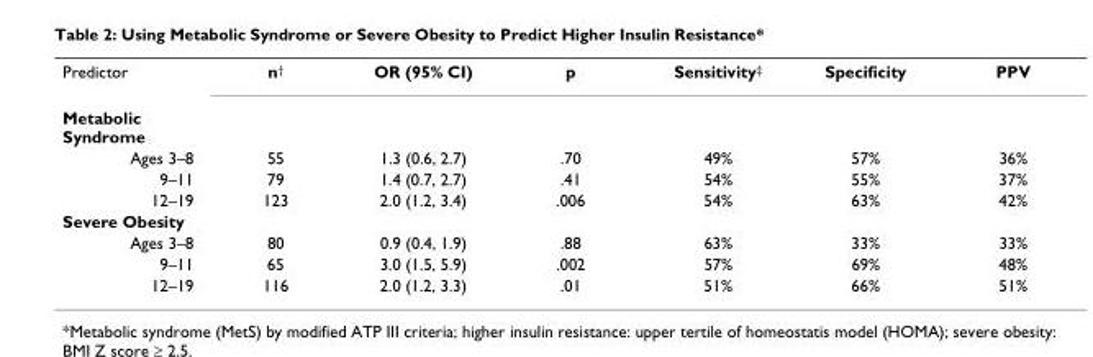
<table><tbody><tr><td>Predictor</td><td>n<sup>†</sup></td><td>OR (95% CI)</td><td>p</td><td>Sensitivity<sup>‡</sup></td><td>Specificity</td><td>PPV</td></tr><tr><td colspan="7">Metabolic Syndrome</td></tr><tr><td>Ages 3–8</td><td>55</td><td>1.3 (0.6, 2.7)</td><td>.70</td><td>49%</td><td>57%</td><td>36%</td></tr><tr><td>9–11</td><td>79</td><td>1.4 (0.7, 2.7)</td><td>.41</td><td>54%</td><td>55%</td><td>37%</td></tr><tr><td>12–19</td><td>123</td><td>2.0 (1.2, 3.4)</td><td>.006</td><td>54%</td><td>63%</td><td>42%</td></tr><tr><td colspan="7">Severe Obesity</td></tr><tr><td>Ages 3–8</td><td>80</td><td>0.9 (0.4, 1.9)</td><td>.88</td><td>63%</td><td>33%</td><td>33%</td></tr><tr><td>9–11</td><td>65</td><td>3.0 (1.5, 5.9)</td><td>.002</td><td>57%</td><td>69%</td><td>48%</td></tr><tr><td>12–19</td><td>116</td><td>2.0 (1.2, 3.3)</td><td>.01</td><td>51%</td><td>66%</td><td>51%</td></tr></tbody></table>